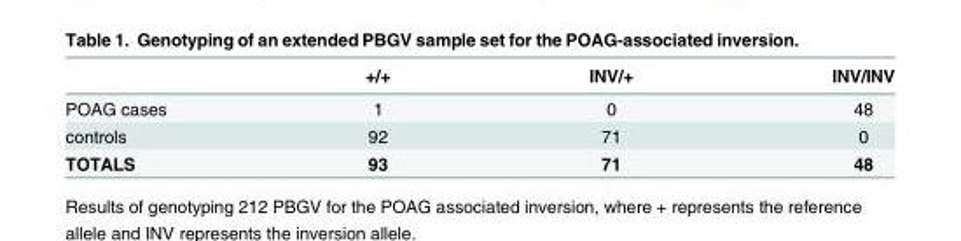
<table><thead><tr><td></td><td>+/+</td><td>INV/+</td><td>INV/INV</td></tr></thead><tbody><tr><td>POAG cases</td><td>1</td><td>0</td><td>48</td></tr><tr><td>controls</td><td>92</td><td>71</td><td>0</td></tr><tr><td>TOTALS</td><td>93</td><td>71</td><td>48</td></tr></tbody></table>